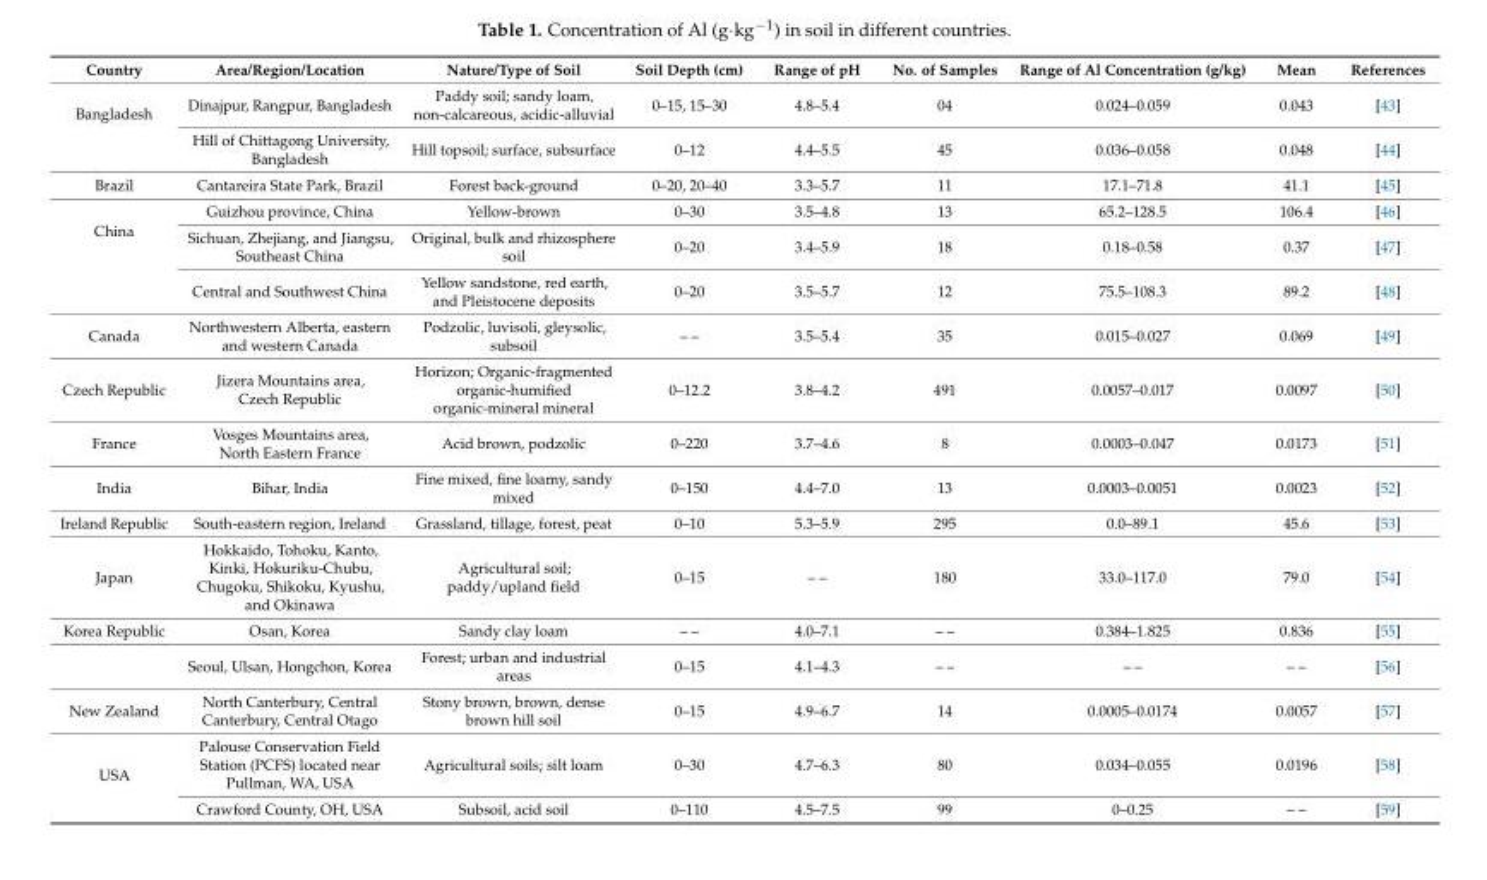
<table><thead><tr><td>Country</td><td>Area/Region/Location</td><td>Nature/Type of Soil</td><td>Soil Depth (cm)</td><td>Range of pH</td><td>No. of Samples</td><td>Range of Al Concentration (g/kg)</td><td>Mean</td><td>References</td></tr></thead><tbody><tr><td rowspan="2">Bangladesh</td><td>Dinajpur, Rangpur, Bangladesh</td><td>Paddy soil; sandy loam, non-calcareous, acidic-alluvial</td><td>0–15, 15–30</td><td>4.8–5.4</td><td>04</td><td>0.024–0.059</td><td>0.043</td><td>[43]</td></tr><tr><td>Hill of Chittagong University, Bangladesh</td><td>Hill topsoil; surface, subsurface</td><td>0–12</td><td>4.4–5.5</td><td>45</td><td>0.036–0.058</td><td>0.048</td><td>[44]</td></tr><tr><td>Brazil</td><td>Cantareira State Park, Brazil</td><td>Forest back-ground</td><td>0–20, 20–40</td><td>3.3–5.7</td><td>11</td><td>17.1–71.8</td><td>41.1</td><td>[45]</td></tr><tr><td rowspan="3">China</td><td>Guizhou province, China</td><td>Yellow-brown</td><td>0–30</td><td>3.5–4.8</td><td>13</td><td>65.2–128.5</td><td>106.4</td><td>[46]</td></tr><tr><td>Sichuan, Zhejiang, and Jiangsu, Southeast China</td><td>Original, bulk and rhizosphere soil</td><td>0–20</td><td>3.4–5.9</td><td>18</td><td>0.18–0.58</td><td>0.37</td><td>[47]</td></tr><tr><td>Central and Southwest China</td><td>Yellow sandstone, red earth, and Pleistocene deposits</td><td>0–20</td><td>3.5–5.7</td><td>12</td><td>75.5–108.3</td><td>89.2</td><td>[48]</td></tr><tr><td>Canada</td><td>Northwestern Alberta, eastern and western Canada</td><td>Podzolic, luvisoli, gleysolic, subsoil</td><td>– –</td><td>3.5–5.4</td><td>35</td><td>0.015–0.027</td><td>0.069</td><td>[49]</td></tr><tr><td>Czech Republic</td><td>Jizera Mountains area, Czech Republic</td><td>Horizon; Organic-fragmented organic-humified organic-mineral mineral</td><td>0–12.2</td><td>3.8–4.2</td><td>491</td><td>0.0057–0.017</td><td>0.0097</td><td>[50]</td></tr><tr><td>France</td><td>Vosges Mountains area, North Eastern France</td><td>Acid brown, podzolic</td><td>0–220</td><td>3.7–4.6</td><td>8</td><td>0.0003–0.047</td><td>0.0173</td><td>[51]</td></tr><tr><td>India</td><td>Bihar, India</td><td>Fine mixed, fine loamy, sandy mixed</td><td>0–150</td><td>4.4–7.0</td><td>13</td><td>0.0003–0.0051</td><td>0.0023</td><td>[52]</td></tr><tr><td>Ireland Republic</td><td>South-eastern region, Ireland</td><td>Grassland, tillage, forest, peat</td><td>0–10</td><td>5.3–5.9</td><td>295</td><td>0.0–89.1</td><td>45.6</td><td>[53]</td></tr><tr><td>Japan</td><td>Hokkaido, Tohoku, Kanto, Kinki, Hokuriku-Chubu, Chugoku, Shikoku, Kyushu, and Okinawa</td><td>Agricultural soil; paddy/upland field</td><td>0–15</td><td>– –</td><td>180</td><td>33.0–117.0</td><td>79.0</td><td>[54]</td></tr><tr><td rowspan="2">Korea Republic</td><td>Osan, Korea</td><td>Sandy clay loam</td><td>– –</td><td>4.0–7.1</td><td>– –</td><td>0.384–1.825</td><td>0.836</td><td>[55]</td></tr><tr><td>Seoul, Ulsan, Hongchon, Korea</td><td>Forest; urban and industrial areas</td><td>0–15</td><td>4.1–4.3</td><td>– –</td><td>– –</td><td>– –</td><td>[56]</td></tr><tr><td>New Zealand</td><td>North Canterbury, Central Canterbury, Central Otago</td><td>Stony brown, brown, dense brown hill soil</td><td>0–15</td><td>4.9–6.7</td><td>14</td><td>0.0005–0.0174</td><td>0.0057</td><td>[57]</td></tr><tr><td rowspan="2">USA</td><td>Palouse Conservation Field Station (PCFS) located near Pullman, WA, USA</td><td>Agricultural soils; silt loam</td><td>0–30</td><td>4.7–6.3</td><td>80</td><td>0.034–0.055</td><td>0.0196</td><td>[58]</td></tr><tr><td>Crawford County, OH, USA</td><td>Subsoil, acid soil</td><td>0–110</td><td>4.5–7.5</td><td>99</td><td>0–0.25</td><td>– –</td><td>[59]</td></tr></tbody></table>